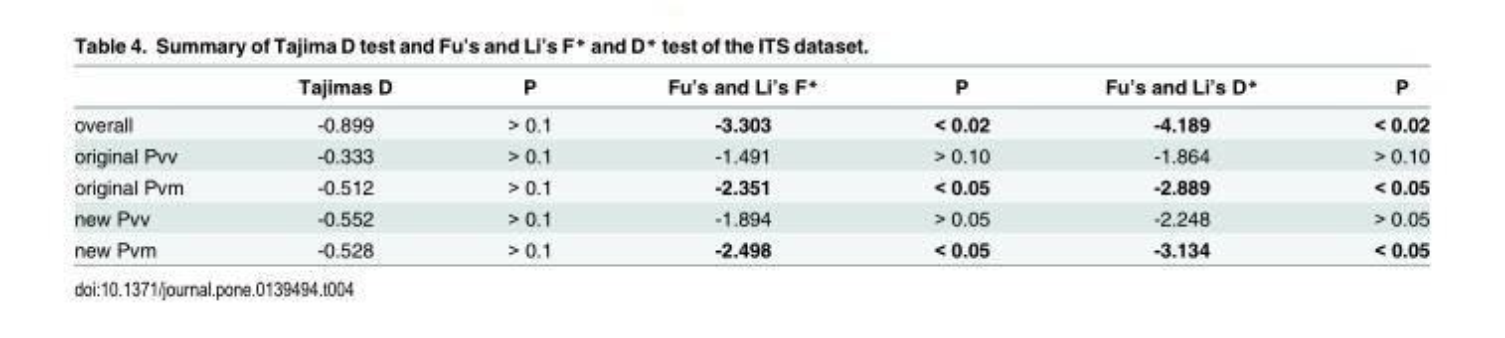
<table><thead><tr><td></td><td>Tajimas D</td><td>P</td><td>Fu’s and Li’s F*</td><td>P</td><td>Fu’s and Li’s D*</td><td>P</td></tr></thead><tbody><tr><td>overall</td><td>-0.899</td><td>&gt; 0.1</td><td>-3.303</td><td>&lt; 0.02</td><td>-4.189</td><td>&lt; 0.02</td></tr><tr><td>original Pvv</td><td>-0.333</td><td>&gt; 0.1</td><td>-1.491</td><td>&gt; 0.10</td><td>-1.864</td><td>&gt; 0.10</td></tr><tr><td>original Pvm</td><td>-0.512</td><td>&gt; 0.1</td><td>-2.351</td><td>&lt; 0.05</td><td>-2.889</td><td>&lt; 0.05</td></tr><tr><td>new Pvv</td><td>-0.552</td><td>&gt; 0.1</td><td>-1.894</td><td>&gt; 0.05</td><td>-2.248</td><td>&gt; 0.05</td></tr><tr><td>new Pvm</td><td>-0.528</td><td>&gt; 0.1</td><td>-2.498</td><td>&lt; 0.05</td><td>-3.134</td><td>&lt; 0.05</td></tr></tbody></table>